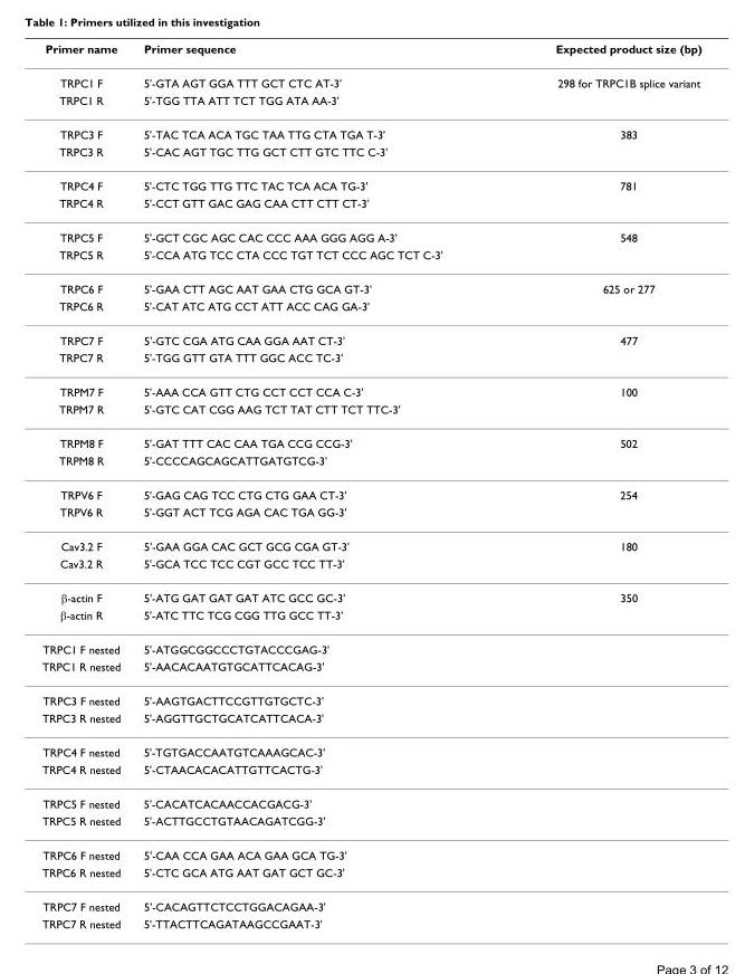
<table><thead><tr><td>Primer name</td><td>Primer sequence</td><td>Expected product size (bp)</td></tr></thead><tbody><tr><td>TRPC1 F</td><td>5&#x27;-GTA AGT GGA TTT GCT CTC AT-3&#x27;</td><td>298 for TRPC1B splice variant</td></tr><tr><td>TRPC1 R</td><td>5&#x27;-TGG TTA ATT TCT TGG ATA AA-3&#x27;</td><td></td></tr><tr><td>TRPC3 F</td><td>5&#x27;-TAC TCA ACA TGC TAA TTG CTA TGA T-3&#x27;</td><td>383</td></tr><tr><td>TRPC3 R</td><td>5&#x27;-CAC AGT TGC TTG GCT CTT GTC TTC C-3&#x27;</td><td></td></tr><tr><td>TRPC4 F</td><td>5&#x27;-CTC TGG TTG TTC TAC TCA ACA TG-3&#x27;</td><td>781</td></tr><tr><td>TRPC4 R</td><td>5&#x27;-CCT GTT GAC GAG CAA CTT CTT CT-3&#x27;</td><td></td></tr><tr><td>TRPC5 F</td><td>5&#x27;-GCT CGC AGC CAC CCC AAA GGG AGG A-3&#x27;</td><td>548</td></tr><tr><td>TRPC5 R</td><td>5&#x27;-CCA ATG TCC CTA CCC TGT TCT CCC AGC TCT C-3&#x27;</td><td></td></tr><tr><td>TRPC6 F</td><td>5&#x27;-GAA CTT AGC AAT GAA CTG GCA GT-3&#x27;</td><td>625 or 277</td></tr><tr><td>TRPC6 R</td><td>5&#x27;-CAT ATC ATG CCT ATT ACC CAG GA-3&#x27;</td><td></td></tr><tr><td>TRPC7 F</td><td>5&#x27;-GTC CGA ATG CAA GGA AAT CT-3&#x27;</td><td>477</td></tr><tr><td>TRPC7 R</td><td>5&#x27;-TGG GTT GTA TTT GGC ACC TC-3&#x27;</td><td></td></tr><tr><td>TRPM7 F</td><td>5&#x27;-AAA CCA GTT CTG CCT CCT CCA C-3&#x27;</td><td>100</td></tr><tr><td>TRPM7 R</td><td>5&#x27;-GTC CAT CGG AAG TCT TAT CTT TCT TTC-3&#x27;</td><td></td></tr><tr><td>TRPM8 F</td><td>5&#x27;-GAT TTT CAC CAA TGA CCG CCG-3&#x27;</td><td>502</td></tr><tr><td>TRPM8 R</td><td>5&#x27;-CCCCAGCAGCATTGATGTCG-3&#x27;</td><td></td></tr><tr><td>TRPV6 F</td><td>5&#x27;-GAG CAG TCC CTG CTG GAA CT-3&#x27;</td><td>254</td></tr><tr><td>TRPV6 R</td><td>5&#x27;-GGT ACT TCG AGA CAC TGA GG-3&#x27;</td><td></td></tr><tr><td>Cav3.2 F</td><td>5&#x27;-GAA GGA CAC GCT GCG CGA GT-3&#x27;</td><td>180</td></tr><tr><td>Cav3.2 R</td><td>5&#x27;-GCA TCC TCC CGT GCC TCC TT-3&#x27;</td><td></td></tr><tr><td>β-actin F</td><td>5&#x27;-ATG GAT GAT GAT ATC GCC GC-3&#x27;</td><td>350</td></tr><tr><td>β-actin R</td><td>5&#x27;-ATC TTC TCG CGG TTG GCC TT-3&#x27;</td><td></td></tr><tr><td>TRPC1 F nested</td><td>5&#x27;-ATGGCGGCCCTGTACCCGAG-3&#x27;</td><td></td></tr><tr><td>TRPC1 R nested</td><td>5&#x27;-AACACAATGTGCATTCACAG-3&#x27;</td><td></td></tr><tr><td>TRPC3 F nested</td><td>5&#x27;-AAGTGACTTCCGTTGTGCTC-3&#x27;</td><td></td></tr><tr><td>TRPC3 R nested</td><td>5&#x27;-AGGTTGCTGCATCATTCACA-3&#x27;</td><td></td></tr><tr><td>TRPC4 F nested</td><td>5&#x27;-TGTGACCAATGTCAAAGCAC-3&#x27;</td><td></td></tr><tr><td>TRPC4 R nested</td><td>5&#x27;-CTAACACACATTGTTCACTG-3&#x27;</td><td></td></tr><tr><td>TRPC5 F nested</td><td>5&#x27;-CACATCACAACCACGACG-3&#x27;</td><td></td></tr><tr><td>TRPC5 R nested</td><td>5&#x27;-ACTTGCCTGTAACAGATCGG-3&#x27;</td><td></td></tr><tr><td>TRPC6 F nested</td><td>5&#x27;-CAA CCA GAA ACA GAA GCA TG-3&#x27;</td><td></td></tr><tr><td>TRPC6 R nested</td><td>5&#x27;-CTC GCA ATG AAT GAT GCT GC-3&#x27;</td><td></td></tr><tr><td>TRPC7 F nested</td><td>5&#x27;-CACAGTTCTCCTGGACAGAA-3&#x27;</td><td></td></tr><tr><td>TRPC7 R nested</td><td>5&#x27;-TTACTTCAGATAAGCCGAAT-3&#x27;</td><td></td></tr></tbody></table>